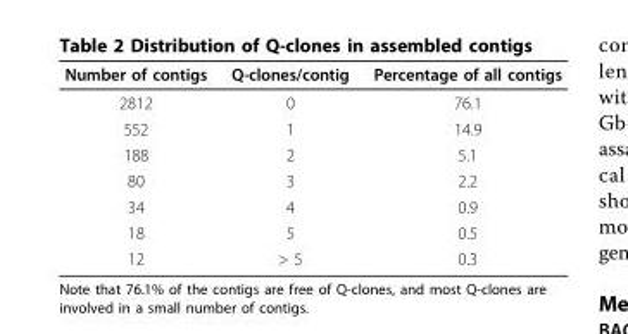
<table><thead><tr><td>Number of contigs</td><td>Q-clones/contig</td><td>Percentage of all contigs</td></tr></thead><tbody><tr><td>2812</td><td>0</td><td>76.1</td></tr><tr><td>552</td><td>1</td><td>14.9</td></tr><tr><td>188</td><td>2</td><td>5.1</td></tr><tr><td>80</td><td>3</td><td>2.2</td></tr><tr><td>34</td><td>4</td><td>0.9</td></tr><tr><td>18</td><td>5</td><td>0.5</td></tr><tr><td>12</td><td>&gt; 5</td><td>0.3</td></tr></tbody></table>